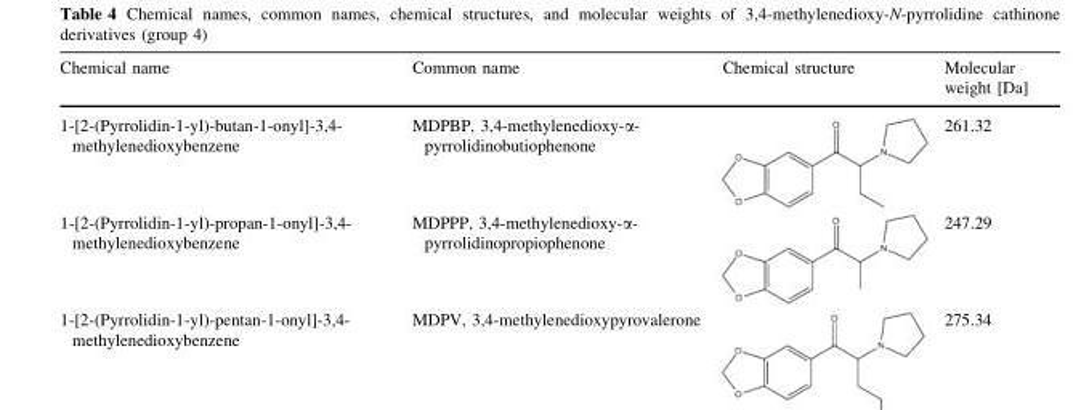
<table><thead><tr><td>Chemical name</td><td>Common name</td><td>Chemical structure</td><td>Molecular weight [Da]</td></tr></thead><tbody><tr><td>1-[2-(Pyrrolidin-1-yl)-butan-1-onyl]-3,4- methylenedioxybenzene</td><td>MDPBP, 3,4-methylenedioxy-α- pyrrolidinobutiophenone</td><td></td><td>261.32</td></tr><tr><td>1-[2-(Pyrrolidin-1-yl)-propan-1-onyl]-3,4- methylenedioxybenzene</td><td>MDPPP, 3,4-methylenedioxy-α- pyrrolidinopropiophenone</td><td></td><td>247.29</td></tr><tr><td>1-[2-(Pyrrolidin-1-yl)-pentan-1-onyl]-3,4- methylenedioxybenzene</td><td>MDPV, 3,4-methylenedioxypyrovalerone</td><td></td><td>275.34</td></tr></tbody></table>